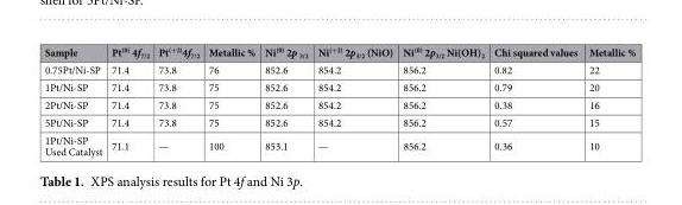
<table><thead><tr><td>Sample</td><td>Pt<sup>(0)</sup> 4f<sub>7/2</sub></td><td>Pt<sup>(+2)</sup>4f<sub>7/2</sub></td><td>Metallic %</td><td>Ni<sup>(0)</sup> 2p <sub>3/2</sub></td><td>Ni<sup>(+2)</sup> 2p<sub>3/2</sub> (NiO)</td><td>Ni<sup>(0)</sup> 2p<sub>3/2</sub> Ni(OH)<sub>2</sub></td><td>Chi squared values</td><td>Metallic %</td></tr></thead><tbody><tr><td>0.75Pt/Ni-SP</td><td>71.4</td><td>73.8</td><td>76</td><td>852.6</td><td>854.2</td><td>856.2</td><td>0.82</td><td>22</td></tr><tr><td>1Pt/Ni-SP</td><td>71.4</td><td>73.8</td><td>75</td><td>852.6</td><td>854.2</td><td>856.2</td><td>0.79</td><td>20</td></tr><tr><td>2Pt/Ni-SP</td><td>71.4</td><td>73.8</td><td>75</td><td>852.6</td><td>854.2</td><td>856.2</td><td>0.38</td><td>16</td></tr><tr><td>5Pt/Ni-SP</td><td>71.4</td><td>73.8</td><td>75</td><td>852.6</td><td>854.2</td><td>856.2</td><td>0.57</td><td>15</td></tr><tr><td>1Pt/Ni-SP Used Catalyst</td><td>71.1</td><td>—</td><td>100</td><td>853.1</td><td>—</td><td>856.2</td><td>0.36</td><td>10</td></tr></tbody></table>